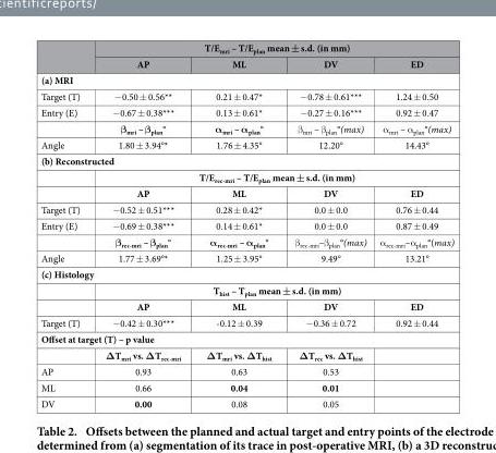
<table><thead><tr><td rowspan="2"></td><td colspan="4">T/E<sub>mri</sub> – T/E<sub>plan</sub> mean ± s.d. (in mm)</td></tr><tr><td>AP</td><td>ML</td><td>DV</td><td>ED</td></tr><tr><td colspan="5">(a) MRI</td></tr></thead><tbody><tr><td>Target (T)</td><td>− 0.50 ± 0.56**</td><td>0.21 ± 0.47*</td><td>− 0.78 ± 0.61***</td><td>1.24 ± 0.50</td></tr><tr><td rowspan="2">Entry (E)</td><td>− 0.67 ± 0.38***</td><td>0.13 ± 0.61*</td><td>− 0.27 ± 0.16***</td><td>0.92 ± 0.47</td></tr><tr><td>β<sub>mri</sub> – β<sub>plan</sub>°</td><td>α<sub>mri</sub> – α<sub>plan</sub>°</td><td>β <sub>mri</sub> – β <sub>plan</sub>°(max)</td><td>α <sub>mri</sub> – α <sub>plan</sub>°(max)</td></tr><tr><td>Angle</td><td>1.80 ± 3.94°*</td><td>1.76 ± 4.35°</td><td>12.20°</td><td>14.43°</td></tr><tr><td colspan="5">(b) Reconstructed</td></tr><tr><td></td><td colspan="4">T/E<sub>rec-mri</sub> – T/E<sub>plan</sub> mean ± s.d. (in mm)</td></tr><tr><td></td><td>AP</td><td>ML</td><td>DV</td><td>ED</td></tr><tr><td>Target (T)</td><td>− 0.52 ± 0.51***</td><td>0.28 ± 0.42*</td><td>0.0 ± 0.0</td><td>0.76 ± 0.44</td></tr><tr><td rowspan="2">Entry (E)</td><td>− 0.69 ± 0.38***</td><td>0.14 ± 0.61*</td><td>0.0 ± 0.0</td><td>0.87 ± 0.49</td></tr><tr><td>β<sub>rec-mri</sub> – β<sub>plan</sub>°</td><td>α<sub>rec-mri</sub> – α<sub>plan</sub>°</td><td>β <sub>rec-mri</sub>–β <sub>plan</sub>°(max)</td><td>α <sub>rec-mri</sub>–α <sub>plan</sub>°(max)</td></tr><tr><td>Angle</td><td>1.77 ± 3.69°*</td><td>1.25 ± 3.95°</td><td>9.49°</td><td>13.21°</td></tr><tr><td colspan="5">(c) Histology</td></tr><tr><td></td><td colspan="4">T<sub>hist</sub> – T<sub>plan</sub> mean ± s.d. (in mm)</td></tr><tr><td></td><td>AP</td><td>ML</td><td>DV</td><td>ED</td></tr><tr><td>Target (T)</td><td>− 0.42 ± 0.30***</td><td>-0.12 ± 0.39</td><td>− 0.36 ± 0.72</td><td>0.92 ± 0.44</td></tr><tr><td colspan="5">Offset at target (T) – p value</td></tr><tr><td></td><td>ΔT<sub>mri</sub> vs. ΔT<sub>rec-mri</sub></td><td>ΔT<sub>mri</sub> vs. ΔT<sub>hist</sub></td><td>ΔT<sub>rec</sub> vs. ΔT<sub>hist</sub></td><td></td></tr><tr><td>AP</td><td>0.93</td><td>0.63</td><td>0.53</td><td></td></tr><tr><td>ML</td><td>0.66</td><td>0.04</td><td>0.01</td><td></td></tr><tr><td>DV</td><td>0.00</td><td>0.08</td><td>0.05</td><td></td></tr></tbody></table>